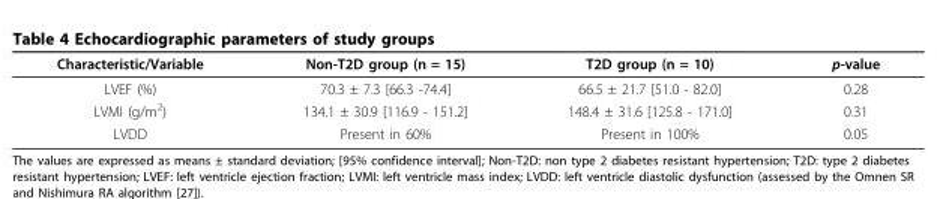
<table><thead><tr><td>Characteristic/Variable</td><td>Non-T2D group (n = 15)</td><td>T2D group (n = 10)</td><td>p-value</td></tr></thead><tbody><tr><td>LVEF (%)</td><td>70.3 ± 7.3 [66.3 -74.4]</td><td>66.5 ± 21.7 [51.0 - 82.0]</td><td>0.28</td></tr><tr><td>LVMI (g/m<sup>2</sup>)</td><td>134.1 ± 30.9 [116.9 - 151.2]</td><td>148.4 ± 31.6 [125.8 - 171.0]</td><td>0.31</td></tr><tr><td>LVDD</td><td>Present in 60%</td><td>Present in 100%</td><td>0.05</td></tr></tbody></table>